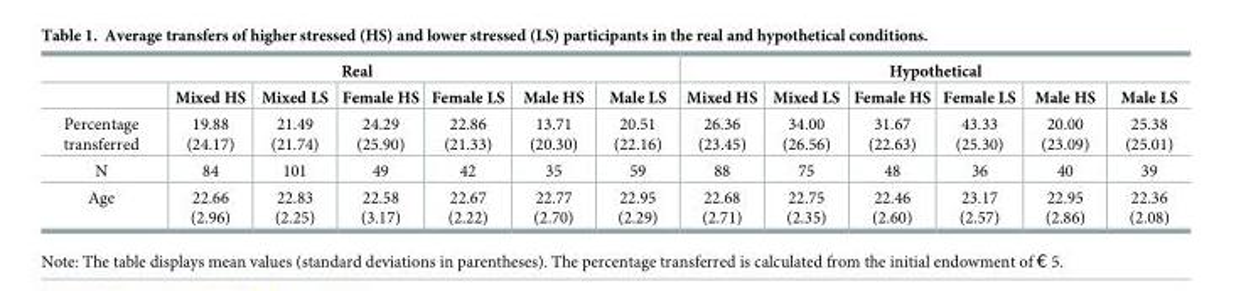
<table><thead><tr><td colspan="7">Real</td><td colspan="6">Hypothetical</td></tr><tr><td></td><td>Mixed HS</td><td>Mixed LS</td><td>Female HS</td><td>Female LS</td><td>Male HS</td><td>Male LS</td><td>Mixed HS</td><td>Mixed LS</td><td>Female HS</td><td>Female LS</td><td>Male HS</td><td>Male LS</td></tr></thead><tbody><tr><td>Percentage transferred</td><td>19.88 (24.17)</td><td>21.49 (21.74)</td><td>24.29 (25.90)</td><td>22.86 (21.33)</td><td>13.71 (20.30)</td><td>20.51 (22.16)</td><td>26.36 (23.45)</td><td>34.00 (26.56)</td><td>31.67 (22.63)</td><td>43.33 (25.30)</td><td>20.00 (23.09)</td><td>25.38 (25.01)</td></tr><tr><td>N</td><td>84</td><td>101</td><td>49</td><td>42</td><td>35</td><td>59</td><td>88</td><td>75</td><td>48</td><td>36</td><td>40</td><td>39</td></tr><tr><td>Age</td><td>22.66 (2.96)</td><td>22.83 (2.25)</td><td>22.58 (3.17)</td><td>22.67 (2.22)</td><td>22.77 (2.70)</td><td>22.95 (2.29)</td><td>22.68 (2.71)</td><td>22.75 (2.35)</td><td>22.46 (2.60)</td><td>23.17 (2.57)</td><td>22.95 (2.86)</td><td>22.36 (2.08)</td></tr></tbody></table>